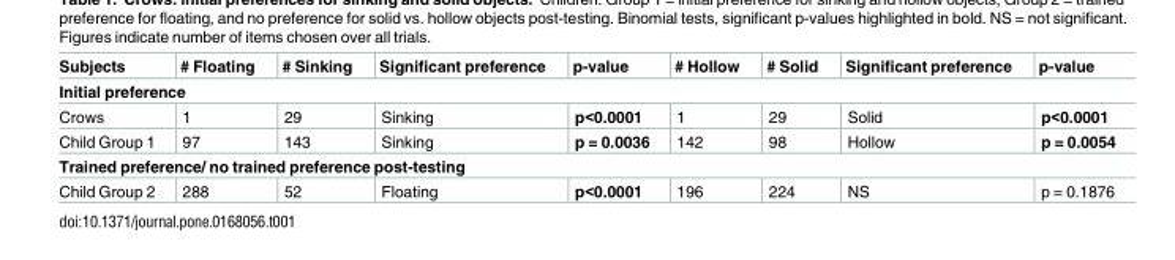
<table><thead><tr><td>Subjects</td><td># Floating</td><td># Sinking</td><td>Significant preference</td><td>p-value</td><td># Hollow</td><td># Solid</td><td>Significant preference</td><td>p-value</td></tr></thead><tbody><tr><td colspan="9">Initial preference</td></tr><tr><td>Crows</td><td>1</td><td>29</td><td>Sinking</td><td>p&lt;0.0001</td><td>1</td><td>29</td><td>Solid</td><td>p&lt;0.0001</td></tr><tr><td>Child Group 1</td><td>97</td><td>143</td><td>Sinking</td><td>p = 0.0036</td><td>142</td><td>98</td><td>Hollow</td><td>p = 0.0054</td></tr><tr><td colspan="9">Trained preference/ no trained preference post-testing</td></tr><tr><td>Child Group 2</td><td>288</td><td>52</td><td>Floating</td><td>p&lt;0.0001</td><td>196</td><td>224</td><td>NS</td><td>p = 0.1876</td></tr></tbody></table>